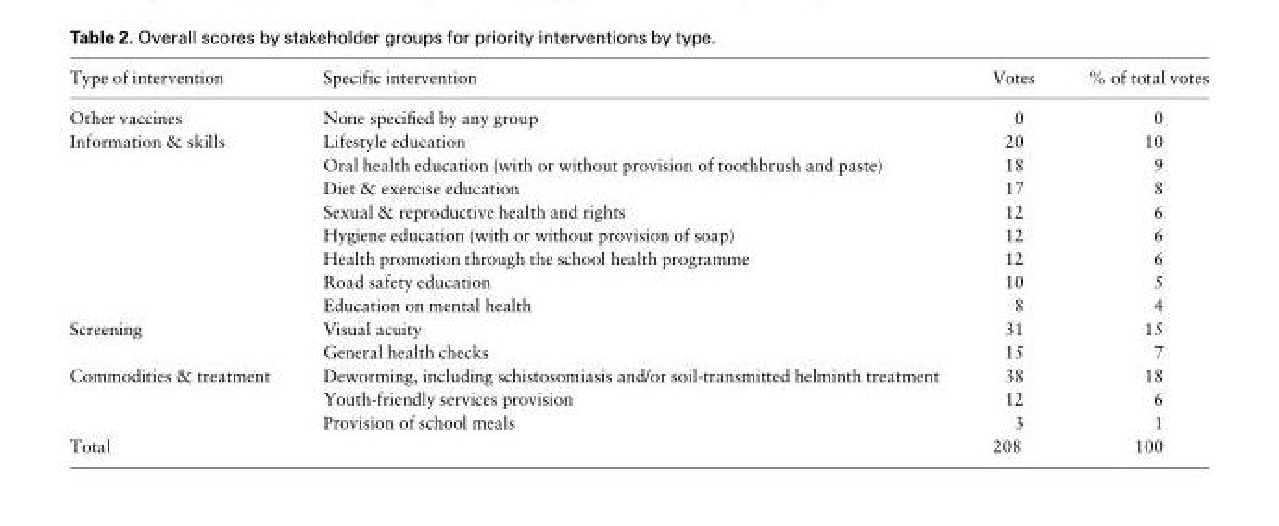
<table><thead><tr><td>Type of intervention</td><td>Specific intervention</td><td>Votes</td><td>% of total votes</td></tr></thead><tbody><tr><td>Other vaccines</td><td>None specified by any group</td><td>0</td><td>0</td></tr><tr><td rowspan="8">Information &amp; skills</td><td>Lifestyle education</td><td>20</td><td>10</td></tr><tr><td>Oral health education (with or without provision of toothbrush and paste)</td><td>18</td><td>9</td></tr><tr><td>Diet &amp; exercise education</td><td>17</td><td>8</td></tr><tr><td>Sexual &amp; reproductive health and rights</td><td>12</td><td>6</td></tr><tr><td>Hygiene education (with or without provision of soap)</td><td>12</td><td>6</td></tr><tr><td>Health promotion through the school health programme</td><td>12</td><td>6</td></tr><tr><td>Road safety education</td><td>10</td><td>5</td></tr><tr><td>Education on mental health</td><td>8</td><td>4</td></tr><tr><td rowspan="2">Screening</td><td>Visual acuity</td><td>31</td><td>15</td></tr><tr><td>General health checks</td><td>15</td><td>7</td></tr><tr><td rowspan="3">Commodities &amp; treatment</td><td>Deworming, including schistosomiasis and/or soil-transmitted helminth treatment</td><td>38</td><td>18</td></tr><tr><td>Youth-friendly services provision</td><td>12</td><td>6</td></tr><tr><td>Provision of school meals</td><td>3</td><td>1</td></tr><tr><td>Total</td><td></td><td>208</td><td>100</td></tr></tbody></table>